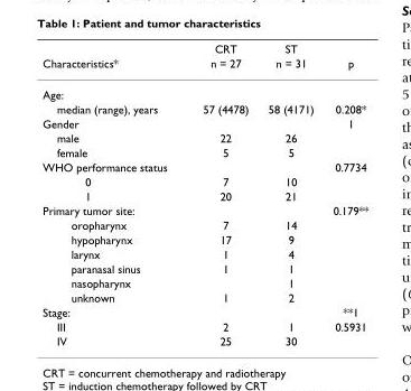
<table><thead><tr><td rowspan="2">Characteristics*</td><td rowspan="2">CRT n = 27</td><td rowspan="2">ST n = 31</td><td rowspan="2">p</td></tr><tr></tr></thead><tbody><tr><td colspan="4">Age:</td></tr><tr><td>median (range), years</td><td>57 (4478)</td><td>58 (4171)</td><td>0.208*</td></tr><tr><td>Gender</td><td></td><td></td><td>1</td></tr><tr><td>male</td><td>22</td><td>26</td><td></td></tr><tr><td>female</td><td>5</td><td>5</td><td></td></tr><tr><td>WHO performance status</td><td></td><td></td><td>0.7734</td></tr><tr><td>0</td><td>7</td><td>10</td><td></td></tr><tr><td>1</td><td>20</td><td>21</td><td></td></tr><tr><td>Primary tumor site:</td><td></td><td></td><td>0.179**</td></tr><tr><td>oropharynx</td><td>7</td><td>14</td><td></td></tr><tr><td>hypopharynx</td><td>17</td><td>9</td><td></td></tr><tr><td>larynx</td><td>1</td><td>4</td><td></td></tr><tr><td>paranasal sinus</td><td>1</td><td>1</td><td></td></tr><tr><td>nasopharynx</td><td></td><td>1</td><td></td></tr><tr><td>unknown</td><td>1</td><td>2</td><td></td></tr><tr><td>Stage:</td><td></td><td></td><td>**1</td></tr><tr><td>III</td><td>2</td><td>1</td><td>0.5931</td></tr><tr><td>IV</td><td>25</td><td>30</td><td></td></tr></tbody></table>